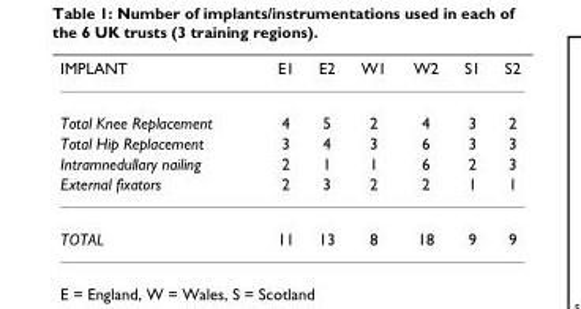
<table><thead><tr><td>IMPLANT</td><td>E1</td><td>E2</td><td>W1</td><td>W2</td><td>S1</td><td>S2</td></tr></thead><tbody><tr><td>Total Knee Replacement</td><td>4</td><td>5</td><td>2</td><td>4</td><td>3</td><td>2</td></tr><tr><td>Total Hip Replacement</td><td>3</td><td>4</td><td>3</td><td>6</td><td>3</td><td>3</td></tr><tr><td>Intramnedullary nailing</td><td>2</td><td>1</td><td>1</td><td>6</td><td>2</td><td>3</td></tr><tr><td>External fixators</td><td>2</td><td>3</td><td>2</td><td>2</td><td>1</td><td>1</td></tr><tr><td>TOTAL</td><td>11</td><td>13</td><td>8</td><td>18</td><td>9</td><td>9</td></tr></tbody></table>